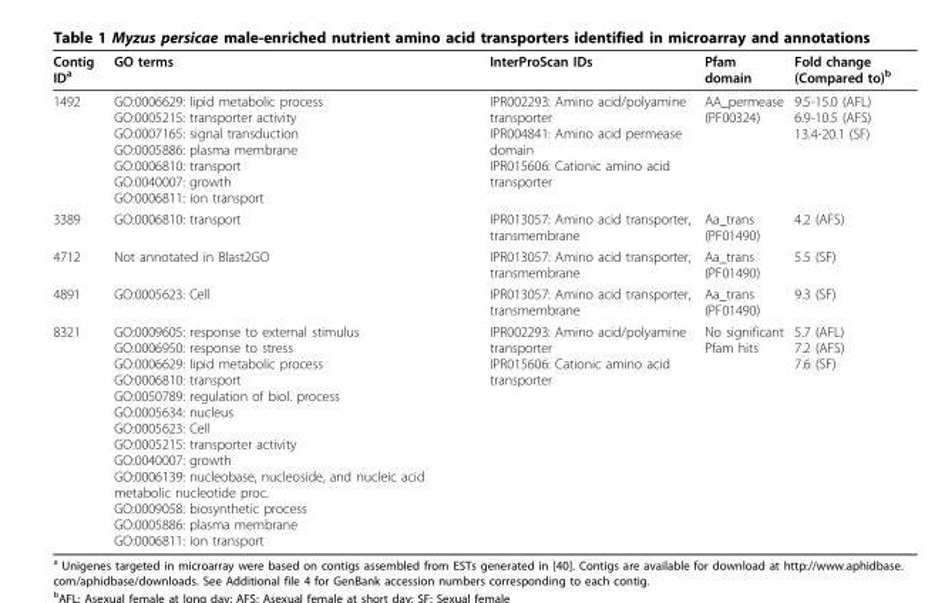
<table><thead><tr><td>Contig ID<sup>a</sup></td><td>GO terms</td><td>InterProScan IDs</td><td>Pfam domain</td><td>Fold change (Compared to)<sup>b</sup></td></tr></thead><tbody><tr><td>1492</td><td>GO:0006629: lipid metabolic process GO:0005215: transporter activity GO:0007165: signal transduction GO:0005886: plasma membrane GO:0006810: transport GO:0040007: growth GO:0006811: ion transport</td><td>IPR002293: Amino acid/polyamine transporter IPR004841: Amino acid permease domain IPR015606: Cationic amino acid transporter</td><td>AA_permease (PF00324)</td><td>9.5-15.0 (AFL) 6.9-10.5 (AFS) 13.4-20.1 (SF)</td></tr><tr><td>3389</td><td>GO:0006810: transport</td><td>IPR013057: Amino acid transporter, transmembrane</td><td>Aa_trans (PF01490)</td><td>4.2 (AFS)</td></tr><tr><td>4712</td><td>Not annotated in Blast2GO</td><td>IPR013057: Amino acid transporter, transmembrane</td><td>Aa_trans (PF01490)</td><td>5.5 (SF)</td></tr><tr><td>4891</td><td>GO:0005623: Cell</td><td>IPR013057: Amino acid transporter, transmembrane</td><td>Aa_trans (PF01490)</td><td>9.3 (SF)</td></tr><tr><td>8321</td><td>GO:0009605: response to external stimulus GO:0006950: response to stress GO:0006629: lipid metabolic process GO:0006810: transport GO:0050789: regulation of biol. process GO:0005634: nucleus GO:0005623: Cell GO:0005215: transporter activity GO:0040007: growth GO:0006139: nucleobase, nucleoside, and nucleic acid metabolic nucleotide proc. GO:0009058: biosynthetic process GO:0005886: plasma membrane GO:0006811: ion transport</td><td>IPR002293: Amino acid/polyamine transporter IPR015606: Cationic amino acid transporter</td><td>No significant Pfam hits</td><td>5.7 (AFL) 7.2 (AFS) 7.6 (SF)</td></tr></tbody></table>